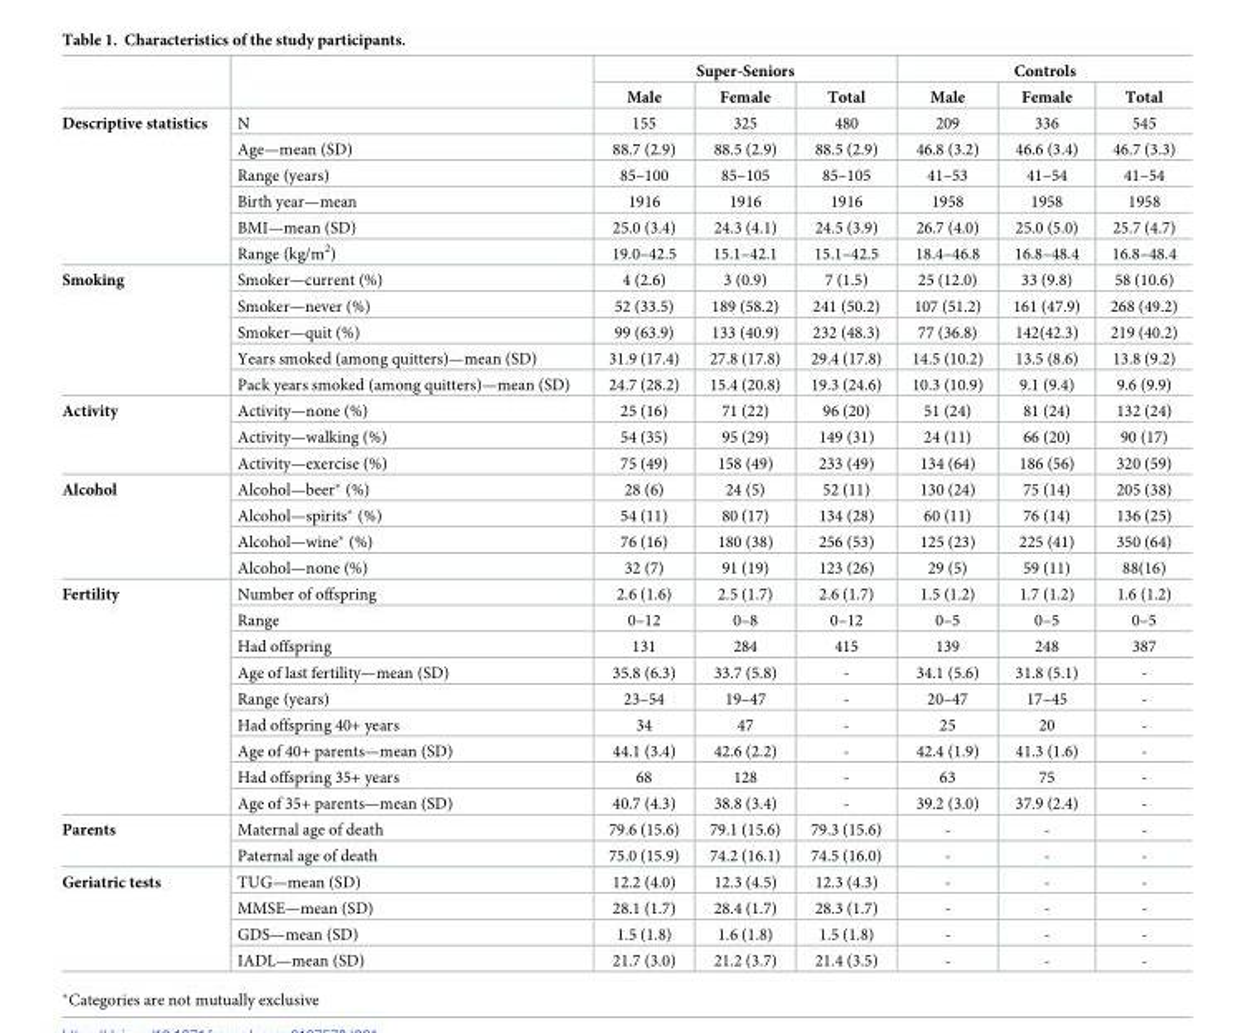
<table><thead><tr><td rowspan="2"></td><td rowspan="2"></td><td colspan="3">Super-Seniors</td><td colspan="3">Controls</td></tr><tr><td>Male</td><td>Female</td><td>Total</td><td>Male</td><td>Female</td><td>Total</td></tr></thead><tbody><tr><td rowspan="6">Descriptive statistics</td><td>N</td><td>155</td><td>325</td><td>480</td><td>209</td><td>336</td><td>545</td></tr><tr><td>Age—mean (SD)</td><td>88.7 (2.9)</td><td>88.5 (2.9)</td><td>88.5 (2.9)</td><td>46.8 (3.2)</td><td>46.6 (3.4)</td><td>46.7 (3.3)</td></tr><tr><td>Range (years)</td><td>85–100</td><td>85–105</td><td>85–105</td><td>41–53</td><td>41–54</td><td>41–54</td></tr><tr><td>Birth year—mean</td><td>1916</td><td>1916</td><td>1916</td><td>1958</td><td>1958</td><td>1958</td></tr><tr><td>BMI—mean (SD)</td><td>25.0 (3.4)</td><td>24.3 (4.1)</td><td>24.5 (3.9)</td><td>26.7 (4.0)</td><td>25.0 (5.0)</td><td>25.7 (4.7)</td></tr><tr><td>Range (kg/m<sup>2</sup>)</td><td>19.0–42.5</td><td>15.1–42.1</td><td>15.1–42.5</td><td>18.4–46.8</td><td>16.8–48.4</td><td>16.8–48.4</td></tr><tr><td rowspan="5">Smoking</td><td>Smoker—current (%)</td><td>4 (2.6)</td><td>3 (0.9)</td><td>7 (1.5)</td><td>25 (12.0)</td><td>33 (9.8)</td><td>58 (10.6)</td></tr><tr><td>Smoker—never (%)</td><td>52 (33.5)</td><td>189 (58.2)</td><td>241 (50.2)</td><td>107 (51.2)</td><td>161 (47.9)</td><td>268 (49.2)</td></tr><tr><td>Smoker—quit (%)</td><td>99 (63.9)</td><td>133 (40.9)</td><td>232 (48.3)</td><td>77 (36.8)</td><td>142(42.3)</td><td>219 (40.2)</td></tr><tr><td>Years smoked (among quitters)—mean (SD)</td><td>31.9 (17.4)</td><td>27.8 (17.8)</td><td>29.4 (17.8)</td><td>14.5 (10.2)</td><td>13.5 (8.6)</td><td>13.8 (9.2)</td></tr><tr><td>Pack years smoked (among quitters)—mean (SD)</td><td>24.7 (28.2)</td><td>15.4 (20.8)</td><td>19.3 (24.6)</td><td>10.3 (10.9)</td><td>9.1 (9.4)</td><td>9.6 (9.9)</td></tr><tr><td rowspan="3">Activity</td><td>Activity—none (%)</td><td>25 (16)</td><td>71 (22)</td><td>96 (20)</td><td>51 (24)</td><td>81 (24)</td><td>132 (24)</td></tr><tr><td>Activity—walking (%)</td><td>54 (35)</td><td>95 (29)</td><td>149 (31)</td><td>24 (11)</td><td>66 (20)</td><td>90 (17)</td></tr><tr><td>Activity—exercise (%)</td><td>75 (49)</td><td>158 (49)</td><td>233 (49)</td><td>134 (64)</td><td>186 (56)</td><td>320 (59)</td></tr><tr><td rowspan="4">Alcohol</td><td>Alcohol—beer* (%)</td><td>28 (6)</td><td>24 (5)</td><td>52 (11)</td><td>130 (24)</td><td>75 (14)</td><td>205 (38)</td></tr><tr><td>Alcohol—spirits* (%)</td><td>54 (11)</td><td>80 (17)</td><td>134 (28)</td><td>60 (11)</td><td>76 (14)</td><td>136 (25)</td></tr><tr><td>Alcohol—wine* (%)</td><td>76 (16)</td><td>180 (38)</td><td>256 (53)</td><td>125 (23)</td><td>225 (41)</td><td>350 (64)</td></tr><tr><td>Alcohol—none (%)</td><td>32 (7)</td><td>91 (19)</td><td>123 (26)</td><td>29 (5)</td><td>59 (11)</td><td>88(16)</td></tr><tr><td rowspan="9">Fertility</td><td>Number of offspring</td><td>2.6 (1.6)</td><td>2.5 (1.7)</td><td>2.6 (1.7)</td><td>1.5 (1.2)</td><td>1.7 (1.2)</td><td>1.6 (1.2)</td></tr><tr><td>Range</td><td>0–12</td><td>0–8</td><td>0–12</td><td>0–5</td><td>0–5</td><td>0–5</td></tr><tr><td>Had offspring</td><td>131</td><td>284</td><td>415</td><td>139</td><td>248</td><td>387</td></tr><tr><td>Age of last fertility—mean (SD)</td><td>35.8 (6.3)</td><td>33.7 (5.8)</td><td>-</td><td>34.1 (5.6)</td><td>31.8 (5.1)</td><td>-</td></tr><tr><td>Range (years)</td><td>23–54</td><td>19–47</td><td>-</td><td>20–47</td><td>17–45</td><td>-</td></tr><tr><td>Had offspring 40+ years</td><td>34</td><td>47</td><td>-</td><td>25</td><td>20</td><td>-</td></tr><tr><td>Age of 40+ parents—mean (SD)</td><td>44.1 (3.4)</td><td>42.6 (2.2)</td><td>-</td><td>42.4 (1.9)</td><td>41.3 (1.6)</td><td>-</td></tr><tr><td>Had offspring 35+ years</td><td>68</td><td>128</td><td>-</td><td>63</td><td>75</td><td>-</td></tr><tr><td>Age of 35+ parents—mean (SD)</td><td>40.7 (4.3)</td><td>38.8 (3.4)</td><td>-</td><td>39.2 (3.0)</td><td>37.9 (2.4)</td><td>-</td></tr><tr><td rowspan="2">Parents</td><td>Maternal age of death</td><td>79.6 (15.6)</td><td>79.1 (15.6)</td><td>79.3 (15.6)</td><td>-</td><td>-</td><td>-</td></tr><tr><td>Paternal age of death</td><td>75.0 (15.9)</td><td>74.2 (16.1)</td><td>74.5 (16.0)</td><td>-</td><td>-</td><td>-</td></tr><tr><td rowspan="4">Geriatric tests</td><td>TUG—mean (SD)</td><td>12.2 (4.0)</td><td>12.3 (4.5)</td><td>12.3 (4.3)</td><td>-</td><td>-</td><td>-</td></tr><tr><td>MMSE—mean (SD)</td><td>28.1 (1.7)</td><td>28.4 (1.7)</td><td>28.3 (1.7)</td><td>-</td><td>-</td><td>-</td></tr><tr><td>GDS—mean (SD)</td><td>1.5 (1.8)</td><td>1.6 (1.8)</td><td>1.5 (1.8)</td><td>-</td><td>-</td><td>-</td></tr><tr><td>IADL—mean (SD)</td><td>21.7 (3.0)</td><td>21.2 (3.7)</td><td>21.4 (3.5)</td><td>-</td><td>-</td><td>-</td></tr></tbody></table>